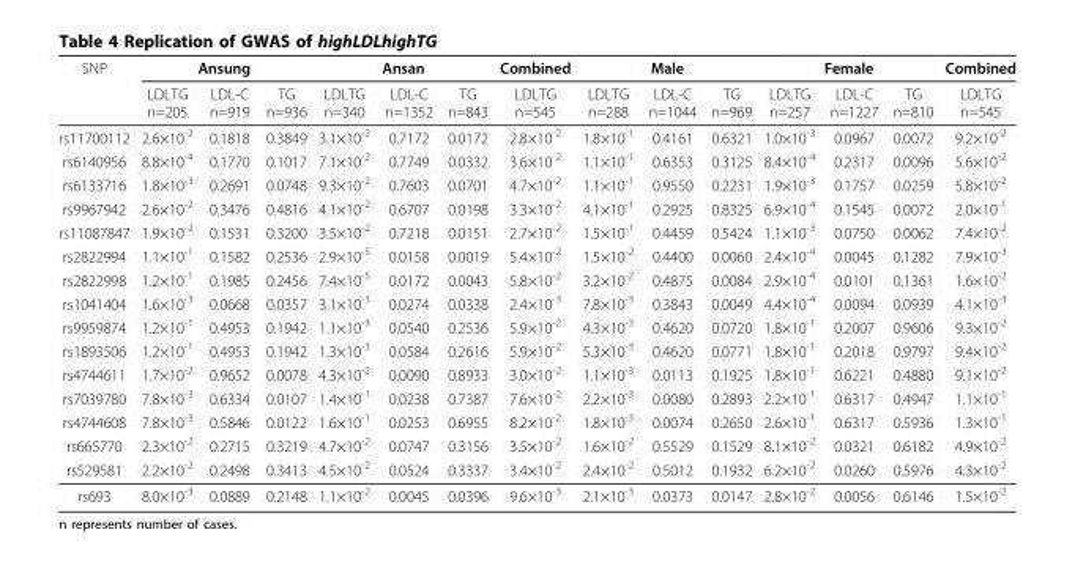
<table><thead><tr><td rowspan="2">SNP</td><td colspan="3">Ansung</td><td colspan="3">Ansan</td><td rowspan="2">Combined LDLTG n=545</td><td colspan="3">Male</td><td colspan="3">Female</td><td rowspan="2">Combined LDLTG n=545</td></tr><tr><td>LDLTG n=205</td><td>LDL-C n=919</td><td>TG n=936</td><td>LDLTG n=340</td><td>LDL-C n=1352</td><td>TG n=843</td><td>LDLTG n=288</td><td>LDL-C n=1044</td><td>TG n=969</td><td>LDLTG n=257</td><td>LDL-C n=1227</td><td>TG n=810</td></tr></thead><tbody><tr><td>rs11700112</td><td>2.6×10<sup>-2</sup></td><td>0.1818</td><td>0.3849</td><td>3.1×10<sup>-2</sup></td><td>0.7172</td><td>0.0172</td><td>2.8×10<sup>-2</sup></td><td>1.8×10<sup>-1</sup></td><td>0.4161</td><td>0.6321</td><td>1.0×10<sup>-3</sup></td><td>0.0967</td><td>0.0072</td><td>9.2×10<sup>-2</sup></td></tr><tr><td>rs6140956</td><td>8.8×10<sup>-4</sup></td><td>0.1770</td><td>0.1017</td><td>7.1×10<sup>-2</sup></td><td>0.7749</td><td>0.0332</td><td>3.6×10<sup>-2</sup></td><td>1.1×10<sup>-1</sup></td><td>0.6353</td><td>0.3125</td><td>8.4×10<sup>-4</sup></td><td>0.2317</td><td>0.0096</td><td>5.6×10<sup>-2</sup></td></tr><tr><td>rs6133716</td><td>1.8×10<sup>-3</sup></td><td>0.2691</td><td>0.0748</td><td>9.3×10<sup>-2</sup></td><td>0.7603</td><td>0.0701</td><td>4.7×10<sup>-2</sup></td><td>1.1×10<sup>-1</sup></td><td>0.9550</td><td>0.2231</td><td>1.9×10<sup>-3</sup></td><td>0.1757</td><td>0.0259</td><td>5.8×10<sup>-2</sup></td></tr><tr><td>rs9967942</td><td>2.6×10<sup>-2</sup></td><td>0.3476</td><td>0.4816</td><td>4.1×10<sup>-2</sup></td><td>0.6707</td><td>0.0198</td><td>3.3×10<sup>-2</sup></td><td>4.1×10<sup>-1</sup></td><td>0.2925</td><td>0.8325</td><td>6.9×10<sup>-4</sup></td><td>0.1545</td><td>0.0072</td><td>2.0×10<sup>-1</sup></td></tr><tr><td>rs11087847</td><td>1.9×10<sup>-2</sup></td><td>0.1531</td><td>0.3200</td><td>3.5×10<sup>-2</sup></td><td>0.7218</td><td>0.0151</td><td>2.7×10<sup>-2</sup></td><td>1.5×10<sup>-1</sup></td><td>0.4459</td><td>0.5424</td><td>1.1×10<sup>-3</sup></td><td>0.0750</td><td>0.0062</td><td>7.4×10<sup>-2</sup></td></tr><tr><td>rs2822994</td><td>1.1×10<sup>-1</sup></td><td>0.1582</td><td>0.2536</td><td>2.9×10<sup>-5</sup></td><td>0.0158</td><td>0.0019</td><td>5.4×10<sup>-2</sup></td><td>1.5×10<sup>-2</sup></td><td>0.4400</td><td>0.0060</td><td>2.4×10<sup>-4</sup></td><td>0.0045</td><td>0.1282</td><td>7.9×10<sup>-3</sup></td></tr><tr><td>rs2822998</td><td>1.2×10<sup>-1</sup></td><td>0.1985</td><td>0.2456</td><td>7.4×10<sup>-5</sup></td><td>0.0172</td><td>0.0043</td><td>5.8×10<sup>-2</sup></td><td>3.2×10<sup>-2</sup></td><td>0.4875</td><td>0.0084</td><td>2.9×10<sup>-4</sup></td><td>0.0101</td><td>0.1361</td><td>1.6×10<sup>-2</sup></td></tr><tr><td>rs1041404</td><td>1.6×10<sup>-3</sup></td><td>0.0668</td><td>0.0357</td><td>3.1×10<sup>-3</sup></td><td>0.0274</td><td>0.0338</td><td>2.4×10<sup>-3</sup></td><td>7.8×10<sup>-3</sup></td><td>0.3843</td><td>0.0049</td><td>4.4×10<sup>-4</sup></td><td>0.0094</td><td>0.0939</td><td>4.1×10<sup>-3</sup></td></tr><tr><td>rs9959874</td><td>1.2×10<sup>-1</sup></td><td>0.4953</td><td>0.1942</td><td>1.1×10<sup>-3</sup></td><td>0.0540</td><td>0.2536</td><td>5.9×10<sup>-2</sup></td><td>4.3×10<sup>-3</sup></td><td>0.4620</td><td>0.0720</td><td>1.8×10<sup>-1</sup></td><td>0.2007</td><td>0.9606</td><td>9.3×10<sup>-2</sup></td></tr><tr><td>rs1893506</td><td>1.2×10<sup>-1</sup></td><td>0.4953</td><td>0.1942</td><td>1.3×10<sup>-3</sup></td><td>0.0584</td><td>0.2616</td><td>5.9×10<sup>-2</sup></td><td>5.3×10<sup>-3</sup></td><td>0.4620</td><td>0.0771</td><td>1.8×10<sup>-1</sup></td><td>0.2018</td><td>0.9797</td><td>9.4×10<sup>-2</sup></td></tr><tr><td>rs4744611</td><td>1.7×10<sup>-2</sup></td><td>0.9652</td><td>0.0078</td><td>4.3×10<sup>-2</sup></td><td>0.0090</td><td>0.8933</td><td>3.0×10<sup>-2</sup></td><td>1.1×10<sup>-3</sup></td><td>0.0113</td><td>0.1925</td><td>1.8×10<sup>-1</sup></td><td>0.6221</td><td>0.4880</td><td>9.1×10<sup>-2</sup></td></tr><tr><td>rs7039780</td><td>7.8×10<sup>-3</sup></td><td>0.6334</td><td>0.0107</td><td>1.4×10<sup>-1</sup></td><td>0.0238</td><td>0.7387</td><td>7.6×10<sup>-2</sup></td><td>2.2×10<sup>-3</sup></td><td>0.0080</td><td>0.2893</td><td>2.2×10<sup>-1</sup></td><td>0.6317</td><td>0.4947</td><td>1.1×10<sup>-1</sup></td></tr><tr><td>rs4744608</td><td>7.8×10<sup>-3</sup></td><td>0.5846</td><td>0.0122</td><td>1.6×10<sup>-1</sup></td><td>0.0253</td><td>0.6955</td><td>8.2×10<sup>-2</sup></td><td>1.8×10<sup>-3</sup></td><td>0.0074</td><td>0.2650</td><td>2.6×10<sup>-1</sup></td><td>0.6317</td><td>0.5936</td><td>1.3×10<sup>-1</sup></td></tr><tr><td>rs665770</td><td>2.3×10<sup>-2</sup></td><td>0.2715</td><td>0.3219</td><td>4.7×10<sup>-2</sup></td><td>0.0747</td><td>0.3156</td><td>3.5×10<sup>-2</sup></td><td>1.6×10<sup>-2</sup></td><td>0.5529</td><td>0.1529</td><td>8.1×10<sup>-2</sup></td><td>0.0321</td><td>0.6182</td><td>4.9×10<sup>-2</sup></td></tr><tr><td>rs529581</td><td>2.2×10<sup>-2</sup></td><td>0.2498</td><td>0.3413</td><td>4.5×10<sup>-2</sup></td><td>0.0524</td><td>0.3337</td><td>3.4×10<sup>-2</sup></td><td>2.4×10<sup>-2</sup></td><td>0.5012</td><td>0.1932</td><td>6.2×10<sup>-2</sup></td><td>0.0260</td><td>0.5976</td><td>4.3×10<sup>-2</sup></td></tr><tr><td>rs693</td><td>8.0×10<sup>-3</sup></td><td>0.0889</td><td>0.2148</td><td>1.1×10<sup>-2</sup></td><td>0.0045</td><td>0.0396</td><td>9.6×10<sup>-3</sup></td><td>2.1×10<sup>-3</sup></td><td>0.0373</td><td>0.0147</td><td>2.8×10<sup>-2</sup></td><td>0.0056</td><td>0.6146</td><td>1.5×10<sup>-2</sup></td></tr></tbody></table>